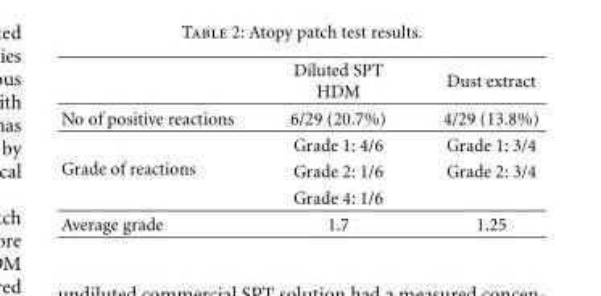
<table><thead><tr><td></td><td>Diluted SPT HDM</td><td>Dust extract</td></tr></thead><tbody><tr><td>No of positive reactions</td><td>6/29 (20.7%)</td><td>4/29 (13.8%)</td></tr><tr><td rowspan="3">Grade of reactions</td><td>Grade 1: 4/6</td><td>Grade 1: 3/4</td></tr><tr><td>Grade 2: 1/6</td><td>Grade 2: 3/4</td></tr><tr><td>Grade 4: 1/6</td><td></td></tr><tr><td>Average grade</td><td>1.7</td><td>1.25</td></tr></tbody></table>